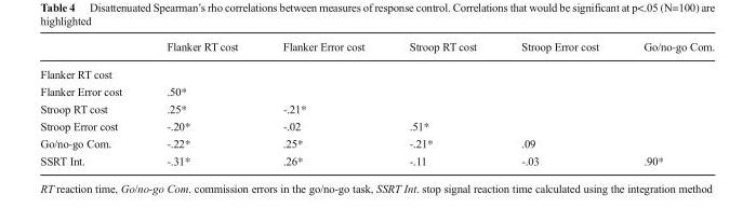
<table><thead><tr><td></td><td>Flanker RT cost</td><td>Flanker Error cost</td><td>Stroop RT cost</td><td>Stroop Error cost</td><td>Go/no-go Com.</td></tr></thead><tbody><tr><td colspan="6">Flanker RT cost</td></tr><tr><td>Flanker Error cost</td><td>.50*</td><td></td><td></td><td></td><td></td></tr><tr><td>Stroop RT cost</td><td>.25*</td><td>-.21*</td><td></td><td></td><td></td></tr><tr><td>Stroop Error cost</td><td>-.20*</td><td>-.02</td><td>.51*</td><td></td><td></td></tr><tr><td>Go/no-go Com.</td><td>-.22*</td><td>.25*</td><td>-.21*</td><td>.09</td><td></td></tr><tr><td>SSRT Int.</td><td>-.31*</td><td>.26*</td><td>-.11</td><td>-.03</td><td>.90*</td></tr></tbody></table>